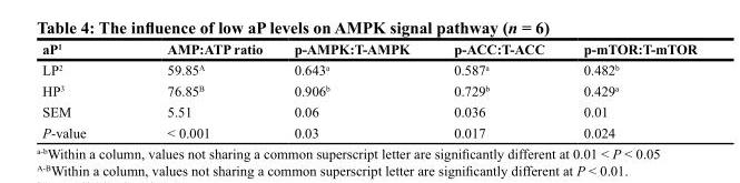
<table><thead><tr><td>aP<sup>1</sup></td><td>AMP:ATP ratio</td><td>p-AMPK:T-AMPK</td><td>p-ACC:T-ACC</td><td>p-mTOR:T-mTOR</td></tr></thead><tbody><tr><td>LP<sup>2</sup></td><td>59.85<sup>A</sup></td><td>0.643<sup>a</sup></td><td>0.587<sup>a</sup></td><td>0.482<sup>b</sup></td></tr><tr><td>HP<sup>3</sup></td><td>76.85<sup>B</sup></td><td>0.906<sup>b</sup></td><td>0.729<sup>b</sup></td><td>0.429<sup>a</sup></td></tr><tr><td>SEM</td><td>5.51</td><td>0.06</td><td>0.036</td><td>0.01</td></tr><tr><td>P-value</td><td>&lt; 0.001</td><td>0.03</td><td>0.017</td><td>0.024</td></tr></tbody></table>